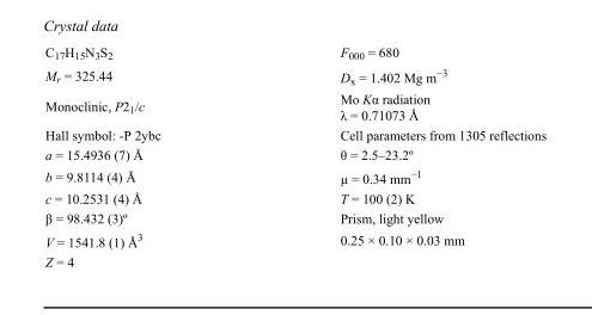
<table><tbody><tr><td>C<sub>17</sub>H<sub>15</sub>N<sub>3</sub>S<sub>2</sub></td><td>F000 = 680</td></tr><tr><td>M<sub>r</sub> = 325.44</td><td>D<sub>x</sub> = 1.402 Mg m<sup>−3</sup></td></tr><tr><td>Monoclinic, P2<sub>1</sub>/c</td><td>Mo Kα radiation λ = 0.71073 Å</td></tr><tr><td>Hall symbol: -P 2ybc</td><td>Cell parameters from 1305 reflections</td></tr><tr><td>a = 15.4936 (7) Å</td><td>θ = 2.5–23.2º</td></tr><tr><td>b = 9.8114 (4) Å</td><td>µ = 0.34 mm<sup>−1</sup></td></tr><tr><td>c = 10.2531 (4) Å</td><td>T = 100 (2) K</td></tr><tr><td>β = 98.432 (3)º</td><td>Prism, light yellow</td></tr><tr><td>V = 1541.8 (1) Å<sup>3</sup></td><td>0.25 × 0.10 × 0.03 mm</td></tr><tr><td>Z = 4</td><td></td></tr></tbody></table>